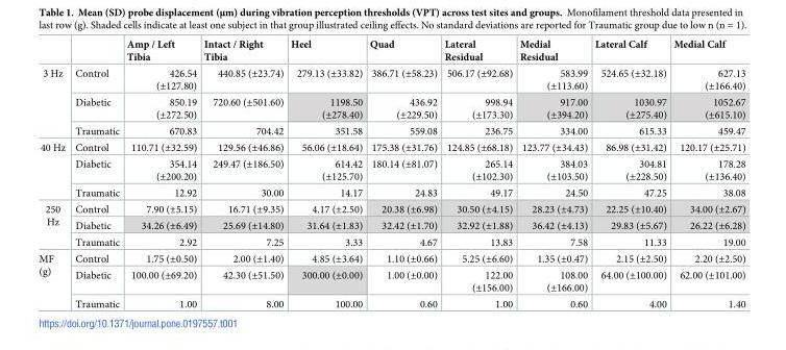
<table><thead><tr><td></td><td></td><td>Amp / Left Tibia</td><td>Intact / Right Tibia</td><td>Heel</td><td>Quad</td><td>Lateral Residual</td><td>Medial Residual</td><td>Lateral Calf</td><td>Medial Calf</td></tr></thead><tbody><tr><td rowspan="3">3 Hz</td><td>Control</td><td>426.54 (±127.80)</td><td>440.85 (±23.74)</td><td>279.13 (±33.82)</td><td>386.71 (±58.23)</td><td>506.17 (±92.68)</td><td>583.99 (±113.60)</td><td>524.65 (±32.18)</td><td>627.13 (±166.40)</td></tr><tr><td>Diabetic</td><td>850.19 (±272.50)</td><td>720.60 (±501.60)</td><td>1198.50 (±278.40)</td><td>436.92 (±229.50)</td><td>998.94 (±173.30)</td><td>917.00 (±394.20)</td><td>1030.97 (±275.40)</td><td>1052.67 (±615.10)</td></tr><tr><td>Traumatic</td><td>670.83</td><td>704.42</td><td>351.58</td><td>559.08</td><td>236.75</td><td>334.00</td><td>615.33</td><td>459.47</td></tr><tr><td rowspan="3">40 Hz</td><td>Control</td><td>110.71 (±32.59)</td><td>129.56 (±46.86)</td><td>56.06 (±18.64)</td><td>175.38 (±31.76)</td><td>124.85 (±68.18)</td><td>123.77 (±34.43)</td><td>86.98 (±31.42)</td><td>120.17 (±25.71)</td></tr><tr><td>Diabetic</td><td>354.14 (±200.20)</td><td>249.47 (±186.50)</td><td>614.42 (±125.70)</td><td>180.14 (±81.07)</td><td>265.14 (±102.30)</td><td>384.03 (±103.50)</td><td>304.81 (±228.50)</td><td>178.28 (±136.40)</td></tr><tr><td>Traumatic</td><td>12.92</td><td>30.00</td><td>14.17</td><td>24.83</td><td>49.17</td><td>24.50</td><td>47.25</td><td>38.08</td></tr><tr><td rowspan="3">250 Hz</td><td>Control</td><td>7.90 (±5.15)</td><td>16.71 (±9.35)</td><td>4.17 (±2.50)</td><td>20.38 (±6.98)</td><td>30.50 (±4.15)</td><td>28.23 (±4.73)</td><td>22.25 (±10.40)</td><td>34.00 (±2.67)</td></tr><tr><td>Diabetic</td><td>34.26 (±6.49)</td><td>25.69 (±14.80)</td><td>31.64 (±1.83)</td><td>32.42 (±1.70)</td><td>32.92 (±1.88)</td><td>36.42 (±4.13)</td><td>29.83 (±5.67)</td><td>26.22 (±6.28)</td></tr><tr><td>Traumatic</td><td>2.92</td><td>7.25</td><td>3.33</td><td>4.67</td><td>13.83</td><td>7.58</td><td>11.33</td><td>19.00</td></tr><tr><td rowspan="3">MF (g)</td><td>Control</td><td>1.75 (±0.50)</td><td>2.00 (±1.40)</td><td>4.85 (±3.64)</td><td>1.10 (±0.66)</td><td>5.25 (±6.60)</td><td>1.35 (±0.47)</td><td>2.15 (±2.50)</td><td>2.20 (±2.50)</td></tr><tr><td>Diabetic</td><td>100.00 (±69.20)</td><td>42.30 (±51.50)</td><td>300.00 (±0.00)</td><td>1.00 (±0.00)</td><td>122.00 (±156.00)</td><td>108.00 (±166.00)</td><td>64.00 (±100.00)</td><td>62.00 (±101.00)</td></tr><tr><td>Traumatic</td><td>1.00</td><td>8.00</td><td>100.00</td><td>0.60</td><td>1.00</td><td>0.60</td><td>4.00</td><td>1.40</td></tr></tbody></table>